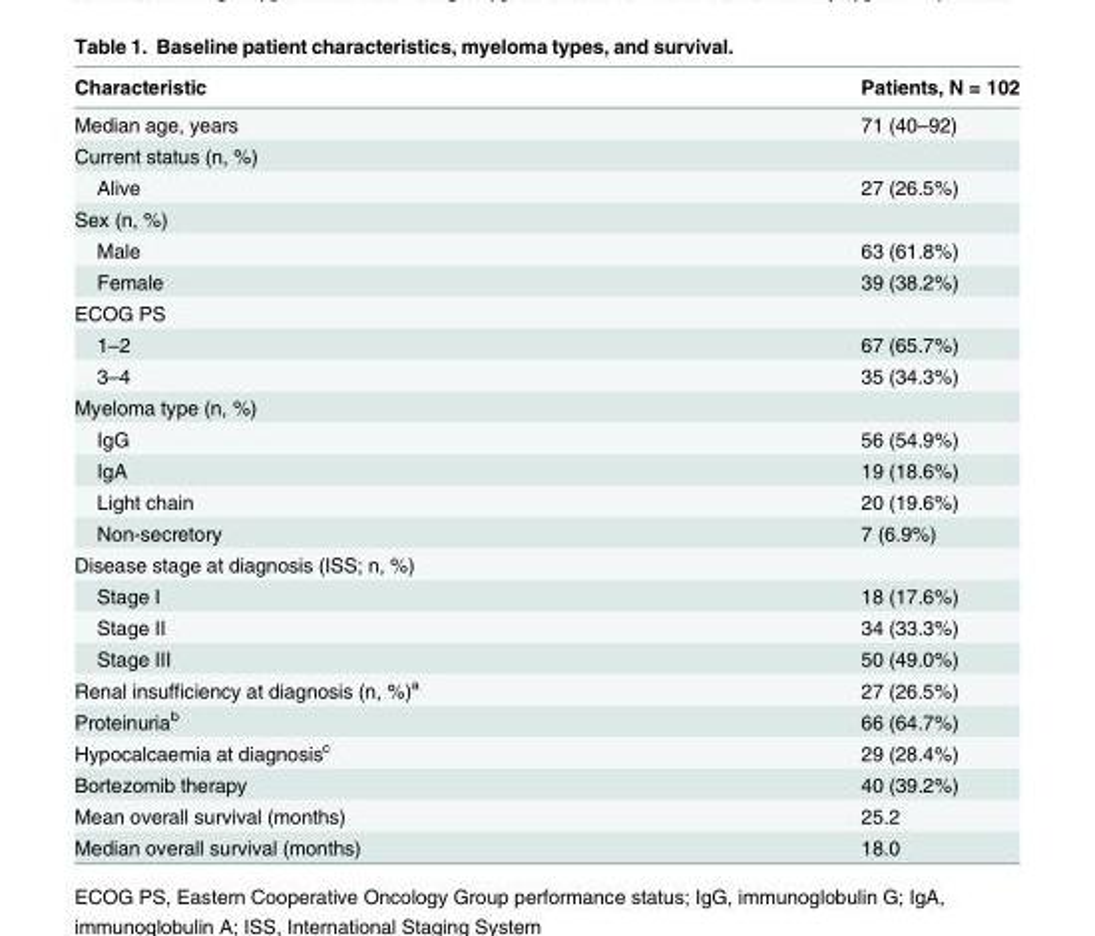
<table><thead><tr><td>Characteristic</td><td>Patients, N = 102</td></tr></thead><tbody><tr><td>Median age, years</td><td>71 (40–92)</td></tr><tr><td colspan="2">Current status (n, %)</td></tr><tr><td>Alive</td><td>27 (26.5%)</td></tr><tr><td colspan="2">Sex (n, %)</td></tr><tr><td>Male</td><td>63 (61.8%)</td></tr><tr><td>Female</td><td>39 (38.2%)</td></tr><tr><td colspan="2">ECOG PS</td></tr><tr><td>1–2</td><td>67 (65.7%)</td></tr><tr><td>3–4</td><td>35 (34.3%)</td></tr><tr><td colspan="2">Myeloma type (n, %)</td></tr><tr><td>IgG</td><td>56 (54.9%)</td></tr><tr><td>IgA</td><td>19 (18.6%)</td></tr><tr><td>Light chain</td><td>20 (19.6%)</td></tr><tr><td>Non-secretory</td><td>7 (6.9%)</td></tr><tr><td colspan="2">Disease stage at diagnosis (ISS; n, %)</td></tr><tr><td>Stage I</td><td>18 (17.6%)</td></tr><tr><td>Stage II</td><td>34 (33.3%)</td></tr><tr><td>Stage III</td><td>50 (49.0%)</td></tr><tr><td>Renal insufficiency at diagnosis (n, %)<sup>a</sup></td><td>27 (26.5%)</td></tr><tr><td>Proteinuria<sup>b</sup></td><td>66 (64.7%)</td></tr><tr><td>Hypocalcaemia at diagnosis<sup>c</sup></td><td>29 (28.4%)</td></tr><tr><td>Bortezomib therapy</td><td>40 (39.2%)</td></tr><tr><td>Mean overall survival (months)</td><td>25.2</td></tr><tr><td>Median overall survival (months)</td><td>18.0</td></tr></tbody></table>